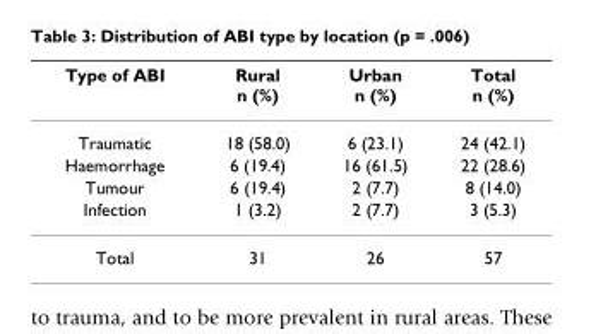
<table><thead><tr><td>Type of ABI</td><td>Rural n (%)</td><td>Urban n (%)</td><td>Total n (%)</td></tr></thead><tbody><tr><td>Traumatic</td><td>18 (58.0)</td><td>6 (23.1)</td><td>24 (42.1)</td></tr><tr><td>Haemorrhage</td><td>6 (19.4)</td><td>16 (61.5)</td><td>22 (28.6)</td></tr><tr><td>Tumour</td><td>6 (19.4)</td><td>2 (7.7)</td><td>8 (14.0)</td></tr><tr><td>Infection</td><td>1 (3.2)</td><td>2 (7.7)</td><td>3 (5.3)</td></tr><tr><td>Total</td><td>31</td><td>26</td><td>57</td></tr></tbody></table>